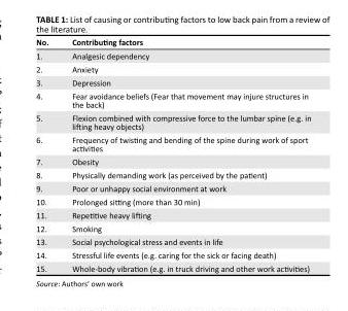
<table><thead><tr><td>No.</td><td>Contributing factors</td></tr></thead><tbody><tr><td>1.</td><td>Analgesic dependency</td></tr><tr><td>2.</td><td>Anxiety</td></tr><tr><td>3.</td><td>Depression</td></tr><tr><td>4.</td><td>Fear avoidance beliefs (Fear that movement may injure structures in the back)</td></tr><tr><td>5.</td><td>Flexion combined with compressive force to the lumbar spine (e.g. in lifting heavy objects)</td></tr><tr><td>6.</td><td>Frequency of twisting and bending of the spine during work of sport activities</td></tr><tr><td>7.</td><td>Obesity</td></tr><tr><td>8.</td><td>Physically demanding work (as perceived by the patient)</td></tr><tr><td>9.</td><td>Poor or unhappy social environment at work</td></tr><tr><td>10.</td><td>Prolonged sitting (more than 30 min)</td></tr><tr><td>11.</td><td>Repetitive heavy lifting</td></tr><tr><td>12.</td><td>Smoking</td></tr><tr><td>13.</td><td>Social psychological stress and events in life</td></tr><tr><td>14.</td><td>Stressful life events (e.g. caring for the sick or facing death)</td></tr><tr><td>15.</td><td>Whole-body vibration (e.g. in truck driving and other work activities)</td></tr></tbody></table>